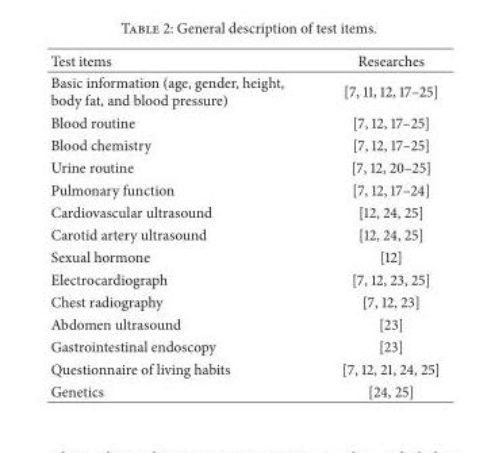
<table><thead><tr><td>Test items</td><td>Researches</td></tr></thead><tbody><tr><td>Basic information (age, gender, height, body fat, and blood pressure)</td><td>[7, 11, 12, 17–25]</td></tr><tr><td>Blood routine</td><td>[7, 12, 17–25]</td></tr><tr><td>Blood chemistry</td><td>[7, 12, 17–25]</td></tr><tr><td>Urine routine</td><td>[7, 12, 20–25]</td></tr><tr><td>Pulmonary function</td><td>[7, 12, 17–24]</td></tr><tr><td>Cardiovascular ultrasound</td><td>[12, 24, 25]</td></tr><tr><td>Carotid artery ultrasound</td><td>[12, 24, 25]</td></tr><tr><td>Sexual hormone</td><td>[12]</td></tr><tr><td>Electrocardiograph</td><td>[7, 12, 23, 25]</td></tr><tr><td>Chest radiography</td><td>[7, 12, 23]</td></tr><tr><td>Abdomen ultrasound</td><td>[23]</td></tr><tr><td>Gastrointestinal endoscopy</td><td>[23]</td></tr><tr><td>Questionnaire of living habits</td><td>[7, 12, 21, 24, 25]</td></tr><tr><td>Genetics</td><td>[24, 25]</td></tr></tbody></table>